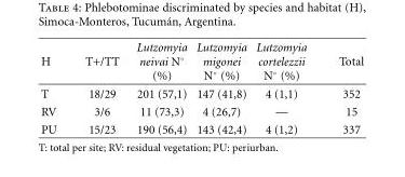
<table><thead><tr><td>H</td><td>T+/TT</td><td>Lutzomyia neivai N◦ (%)</td><td>Lutzomyia migonei N◦ (%)</td><td>Lutzomyia cortelezzii N◦ (%)</td><td>Total</td></tr></thead><tbody><tr><td>T</td><td>18/29</td><td>201 (57,1)</td><td>147 (41,8)</td><td>4 (1,1)</td><td>352</td></tr><tr><td>RV</td><td>3/6</td><td>11 (73,3)</td><td>4 (26,7)</td><td>—</td><td>15</td></tr><tr><td>PU</td><td>15/23</td><td>190 (56,4)</td><td>143 (42,4)</td><td>4 (1,2)</td><td>337</td></tr></tbody></table>